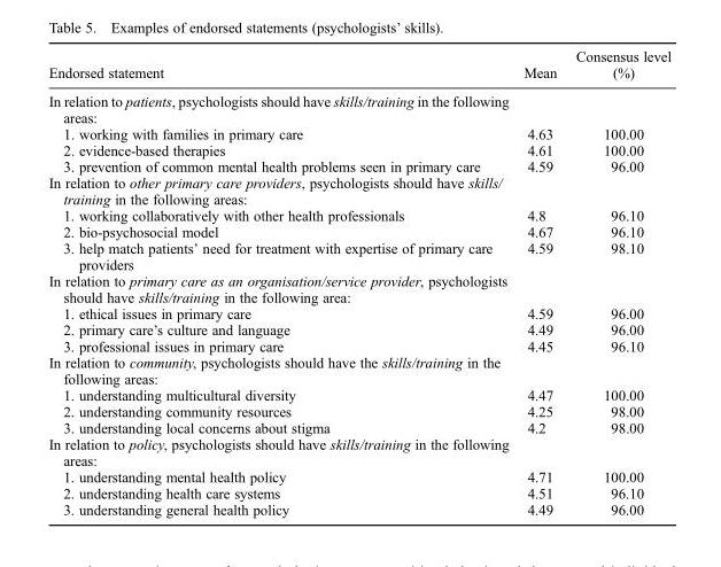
<table><thead><tr><td>Endorsed statement</td><td>Mean</td><td>Consensus level (%)</td></tr></thead><tbody><tr><td colspan="3">In relation to patients, psychologists should have skills/training in the following areas:</td></tr><tr><td>1. working with families in primary care</td><td>4.63</td><td>100.00</td></tr><tr><td>2. evidence-based therapies</td><td>4.61</td><td>100.00</td></tr><tr><td>3. prevention of common mental health problems seen in primary care</td><td>4.59</td><td>96.00</td></tr><tr><td colspan="3">In relation to other primary care providers, psychologists should have skills/ training in the following areas:</td></tr><tr><td>1. working collaboratively with other health professionals</td><td>4.8</td><td>96.10</td></tr><tr><td>2. bio-psychosocial model</td><td>4.67</td><td>96.10</td></tr><tr><td>3. help match patients’ need for treatment with expertise of primary care providers</td><td>4.59</td><td>98.10</td></tr><tr><td colspan="3">In relation to primary care as an organisation/service provider, psychologists should have skills/training in the following area:</td></tr><tr><td>1. ethical issues in primary care</td><td>4.59</td><td>96.00</td></tr><tr><td>2. primary care’s culture and language</td><td>4.49</td><td>96.00</td></tr><tr><td>3. professional issues in primary care</td><td>4.45</td><td>96.10</td></tr><tr><td colspan="3">In relation to community, psychologists should have the skills/training in the following areas:</td></tr><tr><td>1. understanding multicultural diversity</td><td>4.47</td><td>100.00</td></tr><tr><td>2. understanding community resources</td><td>4.25</td><td>98.00</td></tr><tr><td>3. understanding local concerns about stigma</td><td>4.2</td><td>98.00</td></tr><tr><td colspan="3">In relation to policy, psychologists should have skills/training in the following areas:</td></tr><tr><td>1. understanding mental health policy</td><td>4.71</td><td>100.00</td></tr><tr><td>2. understanding health care systems</td><td>4.51</td><td>96.10</td></tr><tr><td>3. understanding general health policy</td><td>4.49</td><td>96.00</td></tr></tbody></table>